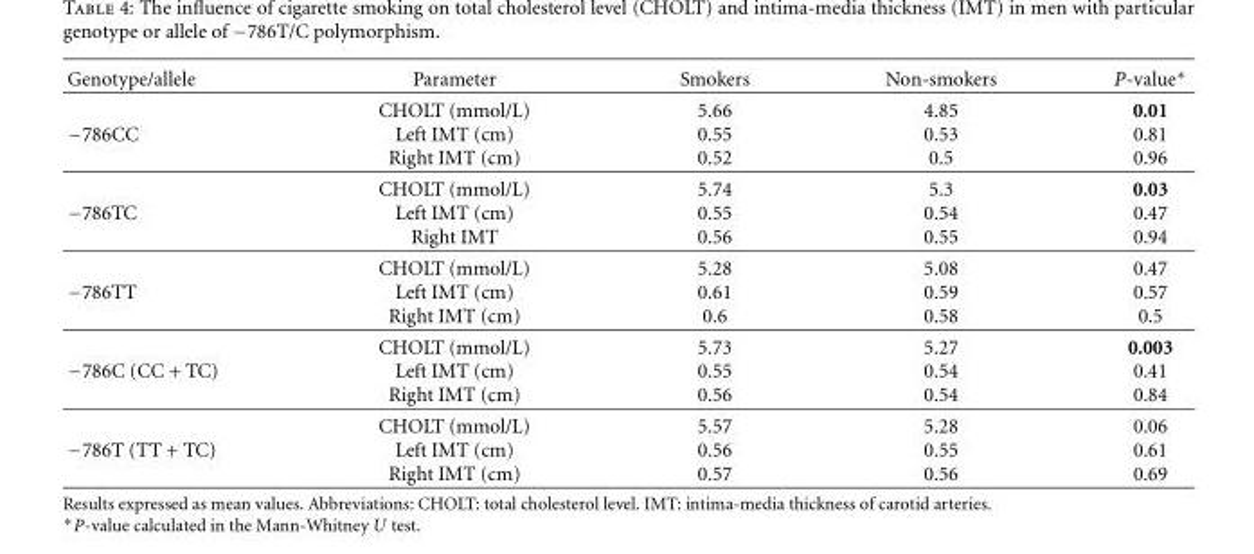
<table><thead><tr><td>Genotype/allele</td><td>Parameter</td><td>Smokers</td><td>Non-smokers</td><td>P-value∗</td></tr></thead><tbody><tr><td>−786CC</td><td>CHOLT (mmol/L) Left IMT (cm) Right IMT (cm)</td><td>5.66 0.55 0.52</td><td>4.85 0.53 0.5</td><td>0.01 0.81 0.96</td></tr><tr><td>−786TC</td><td>CHOLT (mmol/L) Left IMT (cm) Right IMT</td><td>5.74 0.55 0.56</td><td>5.3 0.54 0.55</td><td>0.03 0.47 0.94</td></tr><tr><td>−786TT</td><td>CHOLT (mmol/L) Left IMT (cm) Right IMT (cm)</td><td>5.28 0.61 0.6</td><td>5.08 0.59 0.58</td><td>0.47 0.57 0.5</td></tr><tr><td>−786C (CC + TC)</td><td>CHOLT (mmol/L) Left IMT (cm) Right IMT (cm)</td><td>5.73 0.55 0.56</td><td>5.27 0.54 0.54</td><td>0.003 0.41 0.84</td></tr><tr><td>−786T (TT + TC)</td><td>CHOLT (mmol/L) Left IMT (cm) Right IMT (cm)</td><td>5.57 0.56 0.57</td><td>5.28 0.55 0.56</td><td>0.06 0.61 0.69</td></tr></tbody></table>